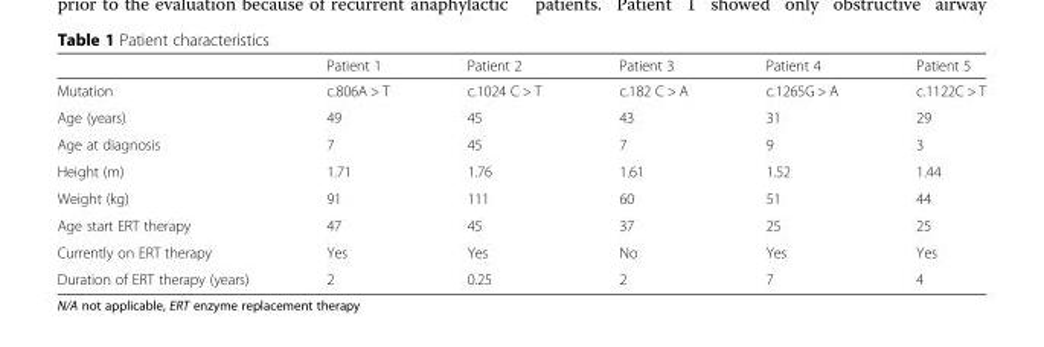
<table><thead><tr><td></td><td>Patient 1</td><td>Patient 2</td><td>Patient 3</td><td>Patient 4</td><td>Patient 5</td></tr></thead><tbody><tr><td>Mutation</td><td>c.806A &gt; T</td><td>c.1024 C &gt; T</td><td>c.182 C &gt; A</td><td>c.1265G &gt; A</td><td>c.1122C &gt; T</td></tr><tr><td>Age (years)</td><td>49</td><td>45</td><td>43</td><td>31</td><td>29</td></tr><tr><td>Age at diagnosis</td><td>7</td><td>45</td><td>7</td><td>9</td><td>3</td></tr><tr><td>Height (m)</td><td>1.71</td><td>1.76</td><td>1.61</td><td>1.52</td><td>1.44</td></tr><tr><td>Weight (kg)</td><td>91</td><td>111</td><td>60</td><td>51</td><td>44</td></tr><tr><td>Age start ERT therapy</td><td>47</td><td>45</td><td>37</td><td>25</td><td>25</td></tr><tr><td>Currently on ERT therapy</td><td>Yes</td><td>Yes</td><td>No</td><td>Yes</td><td>Yes</td></tr><tr><td>Duration of ERT therapy (years)</td><td>2</td><td>0.25</td><td>2</td><td>7</td><td>4</td></tr></tbody></table>